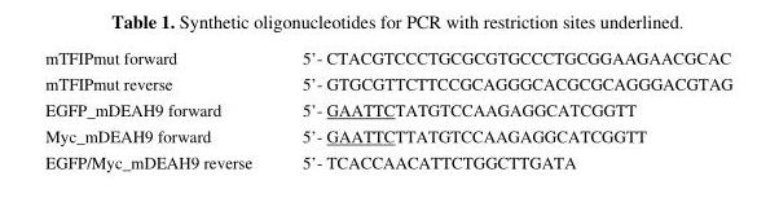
<table><tbody><tr><td>mTFIPmut forward</td><td>5’- CTACGTCCCTGCGCGTGCCCTGCGGAAGAACGCAC</td></tr><tr><td>mTFIPmut reverse</td><td>5’- GTGCGTTCTTCCGCAGGGCACGCGCAGGGACGTAG</td></tr><tr><td>EGFP_mDEAH9 forward</td><td>5’- GAATTCTATGTCCAAGAGGCATCGGTT</td></tr><tr><td>Myc_mDEAH9 forward</td><td>5’- GAATTCTTATGTCCAAGAGGCATCGGTT</td></tr><tr><td>EGFP/Myc_mDEAH9 reverse</td><td>5’- TCACCAACATTCTGGCTTGATA</td></tr></tbody></table>